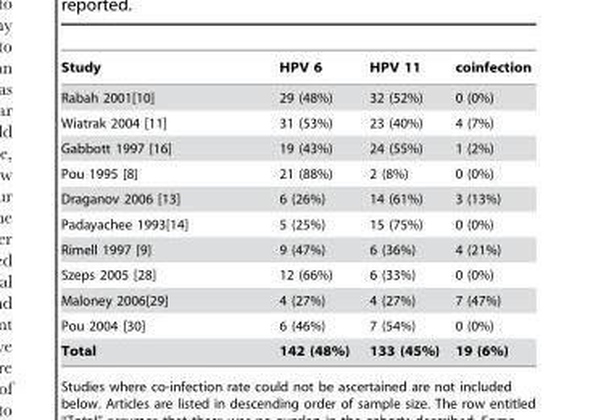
<table><thead><tr><td>Study</td><td>HPV 6</td><td>HPV 11</td><td>coinfection</td></tr></thead><tbody><tr><td>Rabah 2001[10]</td><td>29 (48%)</td><td>32 (52%)</td><td>0 (0%)</td></tr><tr><td>Wiatrak 2004 [11]</td><td>31 (53%)</td><td>23 (40%)</td><td>4 (7%)</td></tr><tr><td>Gabbott 1997 [16]</td><td>19 (43%)</td><td>24 (55%)</td><td>1 (2%)</td></tr><tr><td>Pou 1995 [8]</td><td>21 (88%)</td><td>2 (8%)</td><td>0 (0%)</td></tr><tr><td>Draganov 2006 [13]</td><td>6 (26%)</td><td>14 (61%)</td><td>3 (13%)</td></tr><tr><td>Padayachee 1993[14]</td><td>5 (25%)</td><td>15 (75%)</td><td>0 (0%)</td></tr><tr><td>Rimell 1997 [9]</td><td>9 (47%)</td><td>6 (36%)</td><td>4 (21%)</td></tr><tr><td>Szeps 2005 [28]</td><td>12 (66%)</td><td>6 (33%)</td><td>0 (0%)</td></tr><tr><td>Maloney 2006[29]</td><td>4 (27%)</td><td>4 (27%)</td><td>7 (47%)</td></tr><tr><td>Pou 2004 [30]</td><td>6 (46%)</td><td>7 (54%)</td><td>0 (0%)</td></tr><tr><td>Total</td><td>142 (48%)</td><td>133 (45%)</td><td>19 (6%)</td></tr></tbody></table>